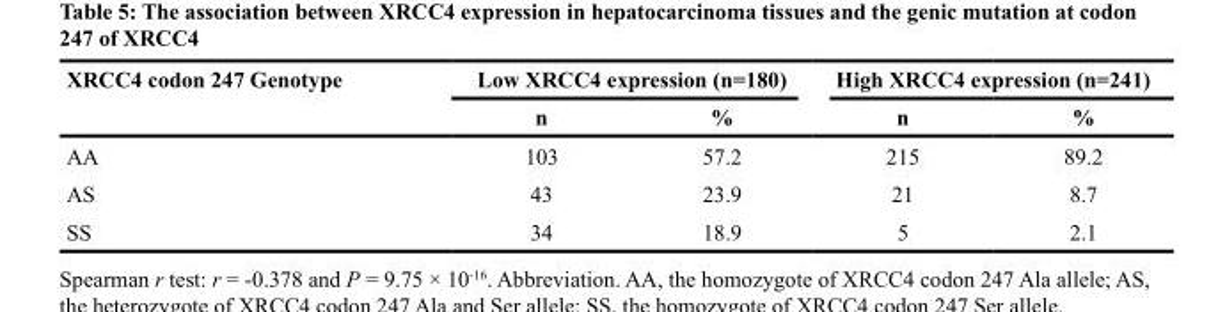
<table><thead><tr><td rowspan="2">XRCC4 codon 247 Genotype</td><td colspan="2">Low XRCC4 expression (n=180)</td><td colspan="2">High XRCC4 expression (n=241)</td></tr><tr><td>n</td><td>%</td><td>n</td><td>%</td></tr></thead><tbody><tr><td>AA</td><td>103</td><td>57.2</td><td>215</td><td>89.2</td></tr><tr><td>AS</td><td>43</td><td>23.9</td><td>21</td><td>8.7</td></tr><tr><td>SS</td><td>34</td><td>18.9</td><td>5</td><td>2.1</td></tr></tbody></table>